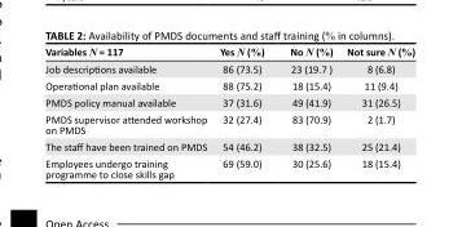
<table><thead><tr><td>Variables N = 117</td><td>Yes N (%)</td><td>No N (%)</td><td>Not sure N (%)</td></tr></thead><tbody><tr><td>Job descriptions available</td><td>86 (73.5)</td><td>23 (19.7 )</td><td>8 (6.8)</td></tr><tr><td>Operational plan available</td><td>88 (75.2)</td><td>18 (15.4)</td><td>11 (9.4)</td></tr><tr><td>PMDS policy manual available</td><td>37 (31.6)</td><td>49 (41.9)</td><td>31 (26.5)</td></tr><tr><td>PMDS supervisor attended workshop on PMDS</td><td>32 (27.4)</td><td>83 (70.9)</td><td>2 (1.7)</td></tr><tr><td>The staff have been trained on PMDS</td><td>54 (46.2)</td><td>38 (32.5)</td><td>25 (21.4)</td></tr><tr><td>Employees undergo training programme to close skills gap</td><td>69 (59.0)</td><td>30 (25.6)</td><td>18 (15.4)</td></tr></tbody></table>